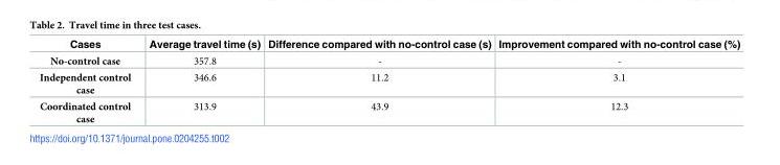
<table><thead><tr><td>Cases</td><td>Average travel time (s)</td><td>Difference compared with no-control case (s)</td><td>Improvement compared with no-control case (%)</td></tr></thead><tbody><tr><td>No-control case</td><td>357.8</td><td>-</td><td>-</td></tr><tr><td>Independent control case</td><td>346.6</td><td>11.2</td><td>3.1</td></tr><tr><td>Coordinated control case</td><td>313.9</td><td>43.9</td><td>12.3</td></tr></tbody></table>